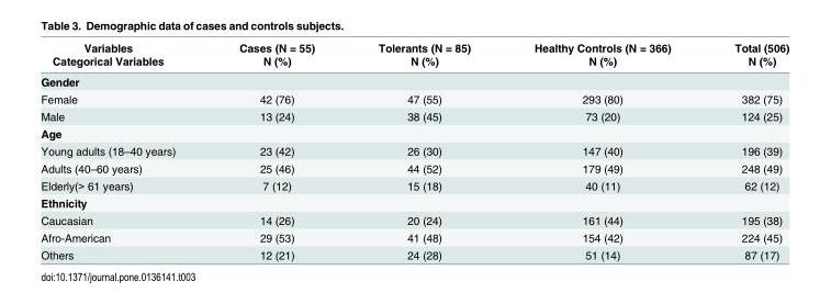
<table><thead><tr><td rowspan="2">Variables Categorical Variables</td><td rowspan="2">Cases (N = 55) N (%)</td><td rowspan="2">Tolerants (N = 85) N (%)</td><td rowspan="2">Healthy Controls (N = 366) N (%)</td><td rowspan="2">Total (506) N (%)</td></tr><tr></tr></thead><tbody><tr><td colspan="5">Gender</td></tr><tr><td>Female</td><td>42 (76)</td><td>47 (55)</td><td>293 (80)</td><td>382 (75)</td></tr><tr><td>Male</td><td>13 (24)</td><td>38 (45)</td><td>73 (20)</td><td>124 (25)</td></tr><tr><td colspan="5">Age</td></tr><tr><td>Young adults (18–40 years)</td><td>23 (42)</td><td>26 (30)</td><td>147 (40)</td><td>196 (39)</td></tr><tr><td>Adults (40–60 years)</td><td>25 (46)</td><td>44 (52)</td><td>179 (49)</td><td>248 (49)</td></tr><tr><td>Elderly(&gt; 61 years)</td><td>7 (12)</td><td>15 (18)</td><td>40 (11)</td><td>62 (12)</td></tr><tr><td colspan="5">Ethnicity</td></tr><tr><td>Caucasian</td><td>14 (26)</td><td>20 (24)</td><td>161 (44)</td><td>195 (38)</td></tr><tr><td>Afro-American</td><td>29 (53)</td><td>41 (48)</td><td>154 (42)</td><td>224 (45)</td></tr><tr><td>Others</td><td>12 (21)</td><td>24 (28)</td><td>51 (14)</td><td>87 (17)</td></tr></tbody></table>